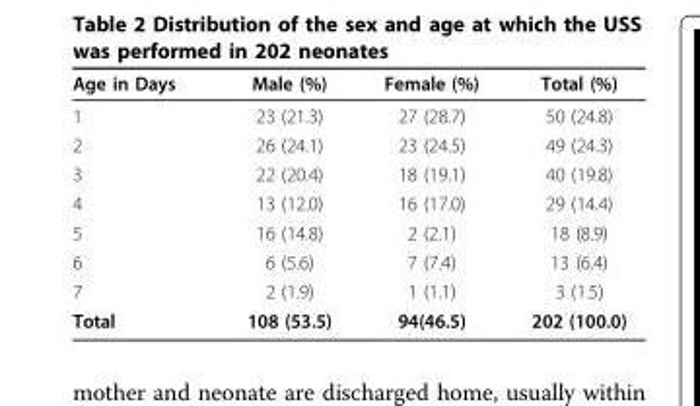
<table><thead><tr><td>Age in Days</td><td>Male (%)</td><td>Female (%)</td><td>Total (%)</td></tr></thead><tbody><tr><td>1</td><td>23 (21.3)</td><td>27 (28.7)</td><td>50 (24.8)</td></tr><tr><td>2</td><td>26 (24.1)</td><td>23 (24.5)</td><td>49 (24.3)</td></tr><tr><td>3</td><td>22 (20.4)</td><td>18 (19.1)</td><td>40 (19.8)</td></tr><tr><td>4</td><td>13 (12.0)</td><td>16 (17.0)</td><td>29 (14.4)</td></tr><tr><td>5</td><td>16 (14.8)</td><td>2 (2.1)</td><td>18 (8.9)</td></tr><tr><td>6</td><td>6 (5.6)</td><td>7 (7.4)</td><td>13 (6.4)</td></tr><tr><td>7</td><td>2 (1.9)</td><td>1 (1.1)</td><td>3 (1.5)</td></tr><tr><td>Total</td><td>108 (53.5)</td><td>94(46.5)</td><td>202 (100.0)</td></tr></tbody></table>